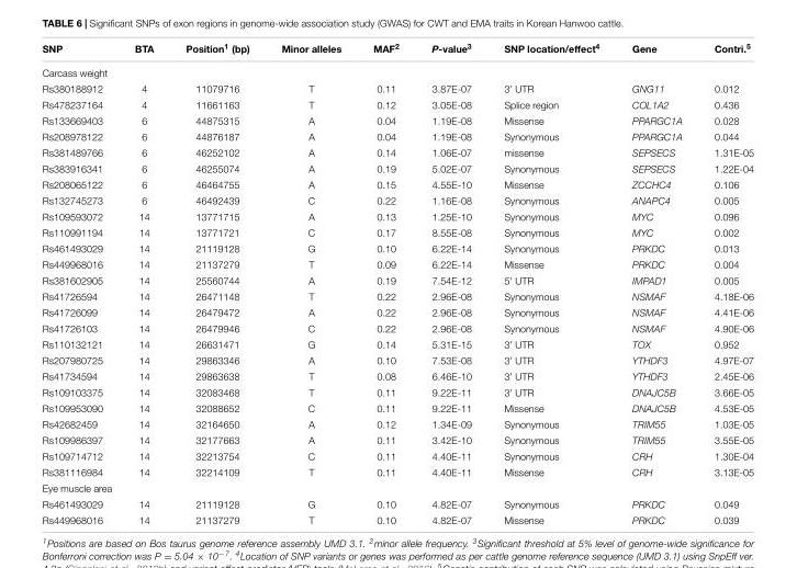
<table><thead><tr><td>SNP</td><td>BTA</td><td>Position<sup>1</sup> (bp)</td><td>Minor alleles</td><td>MAF<sup>2</sup></td><td>P-value<sup>3</sup></td><td>SNP location/effect<sup>4</sup></td><td>Gene</td><td>Contri.<sup>5</sup></td></tr></thead><tbody><tr><td colspan="9">Carcass weight</td></tr><tr><td>Rs380188912</td><td>4</td><td>11079716</td><td>T</td><td>0.11</td><td>3.87E-07</td><td>3′ UTR</td><td>GNG11</td><td>0.012</td></tr><tr><td>Rs478237164</td><td>4</td><td>11661163</td><td>T</td><td>0.12</td><td>3.05E-08</td><td>Splice region</td><td>COL1A2</td><td>0.436</td></tr><tr><td>Rs133669403</td><td>6</td><td>44875315</td><td>A</td><td>0.04</td><td>1.19E-08</td><td>Missense</td><td>PPARGC1A</td><td>0.028</td></tr><tr><td>Rs208978122</td><td>6</td><td>44876187</td><td>A</td><td>0.04</td><td>1.19E-08</td><td>Synonymous</td><td>PPARGC1A</td><td>0.044</td></tr><tr><td>Rs381489766</td><td>6</td><td>46252102</td><td>A</td><td>0.14</td><td>1.06E-07</td><td>missense</td><td>SEPSECS</td><td>1.31E-05</td></tr><tr><td>Rs383916341</td><td>6</td><td>46255074</td><td>A</td><td>0.19</td><td>5.02E-07</td><td>Synonymous</td><td>SEPSECS</td><td>1.22E-04</td></tr><tr><td>Rs208065122</td><td>6</td><td>46464755</td><td>A</td><td>0.15</td><td>4.55E-10</td><td>Missense</td><td>ZCCHC4</td><td>0.106</td></tr><tr><td>Rs132745273</td><td>6</td><td>46492439</td><td>C</td><td>0.22</td><td>1.16E-08</td><td>Synonymous</td><td>ANAPC4</td><td>0.005</td></tr><tr><td>Rs109593072</td><td>14</td><td>13771715</td><td>A</td><td>0.13</td><td>1.25E-10</td><td>Synonymous</td><td>MYC</td><td>0.096</td></tr><tr><td>Rs110991194</td><td>14</td><td>13771721</td><td>C</td><td>0.17</td><td>8.55E-08</td><td>Synonymous</td><td>MYC</td><td>0.002</td></tr><tr><td>Rs461493029</td><td>14</td><td>21119128</td><td>G</td><td>0.10</td><td>6.22E-14</td><td>Synonymous</td><td>PRKDC</td><td>0.013</td></tr><tr><td>Rs449968016</td><td>14</td><td>21137279</td><td>T</td><td>0.09</td><td>6.22E-14</td><td>Missense</td><td>PRKDC</td><td>0.004</td></tr><tr><td>Rs381602905</td><td>14</td><td>25560744</td><td>A</td><td>0.19</td><td>7.54E-12</td><td>5′ UTR</td><td>IMPAD1</td><td>0.005</td></tr><tr><td>Rs41726594</td><td>14</td><td>26471148</td><td>T</td><td>0.22</td><td>2.96E-08</td><td>Synonymous</td><td>NSMAF</td><td>4.18E-06</td></tr><tr><td>Rs41726099</td><td>14</td><td>26479472</td><td>A</td><td>0.22</td><td>2.96E-08</td><td>Synonymous</td><td>NSMAF</td><td>4.41E-06</td></tr><tr><td>Rs41726103</td><td>14</td><td>26479946</td><td>C</td><td>0.22</td><td>2.96E-08</td><td>Synonymous</td><td>NSMAF</td><td>4.90E-06</td></tr><tr><td>Rs110132121</td><td>14</td><td>26631471</td><td>G</td><td>0.14</td><td>5.31E-15</td><td>3′ UTR</td><td>TOX</td><td>0.952</td></tr><tr><td>Rs207980725</td><td>14</td><td>29863346</td><td>A</td><td>0.10</td><td>7.53E-08</td><td>3′ UTR</td><td>YTHDF3</td><td>4.97E-07</td></tr><tr><td>Rs41734594</td><td>14</td><td>29863638</td><td>T</td><td>0.08</td><td>6.46E-10</td><td>3′ UTR</td><td>YTHDF3</td><td>2.45E-06</td></tr><tr><td>Rs109103375</td><td>14</td><td>32083468</td><td>T</td><td>0.11</td><td>9.22E-11</td><td>3′ UTR</td><td>DNAJC5B</td><td>3.66E-05</td></tr><tr><td>Rs109953090</td><td>14</td><td>32088652</td><td>C</td><td>0.11</td><td>9.22E-11</td><td>Missense</td><td>DNAJC5B</td><td>4.53E-05</td></tr><tr><td>Rs42682459</td><td>14</td><td>32164650</td><td>A</td><td>0.12</td><td>1.34E-09</td><td>Synonymous</td><td>TRIM55</td><td>1.03E-05</td></tr><tr><td>Rs109986397</td><td>14</td><td>32177663</td><td>A</td><td>0.11</td><td>3.42E-10</td><td>Synonymous</td><td>TRIM55</td><td>3.55E-05</td></tr><tr><td>Rs109714712</td><td>14</td><td>32213754</td><td>C</td><td>0.11</td><td>4.40E-11</td><td>Synonymous</td><td>CRH</td><td>1.30E-04</td></tr><tr><td>Rs381116984</td><td>14</td><td>32214109</td><td>T</td><td>0.11</td><td>4.40E-11</td><td>Missense</td><td>CRH</td><td>3.13E-05</td></tr><tr><td colspan="9">Eye muscle area</td></tr><tr><td>Rs461493029</td><td>14</td><td>21119128</td><td>G</td><td>0.10</td><td>4.82E-07</td><td>Synonymous</td><td>PRKDC</td><td>0.049</td></tr><tr><td>Rs449968016</td><td>14</td><td>21137279</td><td>T</td><td>0.10</td><td>4.82E-07</td><td>Missense</td><td>PRKDC</td><td>0.039</td></tr></tbody></table>